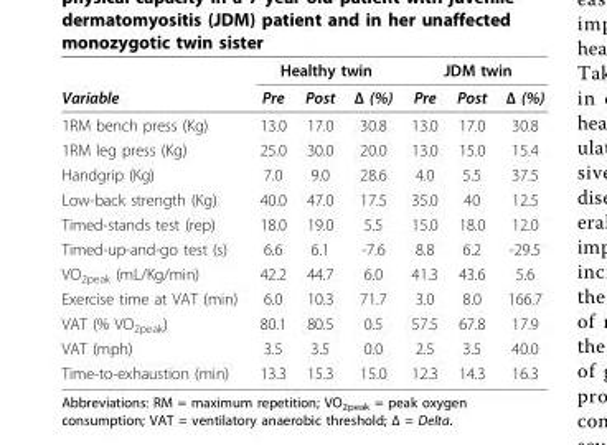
<table><thead><tr><td rowspan="2">Variable</td><td colspan="3">Healthy twin</td><td colspan="3">JDM twin</td></tr><tr><td>Pre</td><td>Post</td><td>Δ (%)</td><td>Pre</td><td>Post</td><td>Δ (%)</td></tr></thead><tbody><tr><td>1RM bench press (Kg)</td><td>13.0</td><td>17.0</td><td>30.8</td><td>13.0</td><td>17.0</td><td>30.8</td></tr><tr><td>1RM leg press (Kg)</td><td>25.0</td><td>30.0</td><td>20.0</td><td>13.0</td><td>15.0</td><td>15.4</td></tr><tr><td>Handgrip (Kg)</td><td>7.0</td><td>9.0</td><td>28.6</td><td>4.0</td><td>5.5</td><td>37.5</td></tr><tr><td>Low-back strength (Kg)</td><td>40.0</td><td>47.0</td><td>17.5</td><td>35.0</td><td>40</td><td>12.5</td></tr><tr><td>Timed-stands test (rep)</td><td>18.0</td><td>19.0</td><td>5.5</td><td>15.0</td><td>18.0</td><td>12.0</td></tr><tr><td>Timed-up-and-go test (s)</td><td>6.6</td><td>6.1</td><td>-7.6</td><td>8.8</td><td>6.2</td><td>-29.5</td></tr><tr><td>VO<sub>2peak</sub> (mL/Kg/min)</td><td>42.2</td><td>44.7</td><td>6.0</td><td>41.3</td><td>43.6</td><td>5.6</td></tr><tr><td>Exercise time at VAT (min)</td><td>6.0</td><td>10.3</td><td>71.7</td><td>3.0</td><td>8.0</td><td>166.7</td></tr><tr><td>VAT (% VO<sub>2peak</sub>)</td><td>80.1</td><td>80.5</td><td>0.5</td><td>57.5</td><td>67.8</td><td>17.9</td></tr><tr><td>VAT (mph)</td><td>3.5</td><td>3.5</td><td>0.0</td><td>2.5</td><td>3.5</td><td>40.0</td></tr><tr><td>Time-to-exhaustion (min)</td><td>13.3</td><td>15.3</td><td>15.0</td><td>12.3</td><td>14.3</td><td>16.3</td></tr></tbody></table>